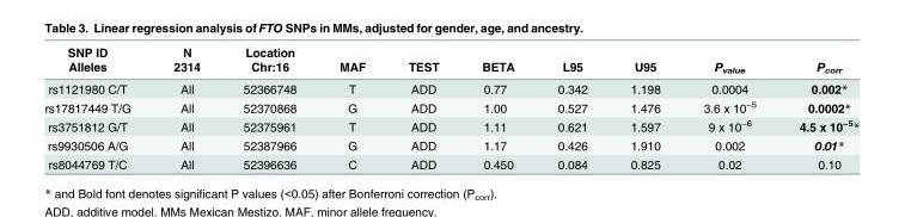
<table><thead><tr><td rowspan="2">SNP ID Alleles</td><td rowspan="2">N 2314</td><td rowspan="2">Location Chr:16</td><td rowspan="2">MAF</td><td rowspan="2">TEST</td><td rowspan="2">BETA</td><td rowspan="2">L95</td><td rowspan="2">U95</td><td rowspan="2">P<sub>value</sub></td><td rowspan="2">P<sub>corr</sub></td></tr><tr></tr></thead><tbody><tr><td>rs1121980 C/T</td><td>All</td><td>52366748</td><td>T</td><td>ADD</td><td>0.77</td><td>0.342</td><td>1.198</td><td>0.0004</td><td>0.002*</td></tr><tr><td>rs17817449 T/G</td><td>All</td><td>52370868</td><td>G</td><td>ADD</td><td>1.00</td><td>0.527</td><td>1.476</td><td>3.6 x 10<sup>−5</sup></td><td>0.0002*</td></tr><tr><td>rs3751812 G/T</td><td>All</td><td>52375961</td><td>T</td><td>ADD</td><td>1.11</td><td>0.621</td><td>1.597</td><td>9 x 10<sup>−6</sup></td><td>4.5 x 10<sup>−5</sup>*</td></tr><tr><td>rs9930506 A/G</td><td>All</td><td>52387966</td><td>G</td><td>ADD</td><td>1.17</td><td>0.426</td><td>1.910</td><td>0.002</td><td>0.01*</td></tr><tr><td>rs8044769 T/C</td><td>All</td><td>52396636</td><td>C</td><td>ADD</td><td>0.450</td><td>0.084</td><td>0.825</td><td>0.02</td><td>0.10</td></tr></tbody></table>